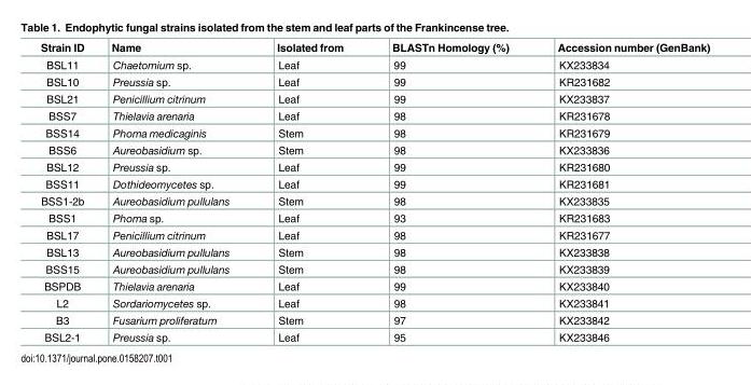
<table><thead><tr><td>Strain ID</td><td>Name</td><td>Isolated from</td><td>BLASTn Homology (%)</td><td>Accession number (GenBank)</td></tr></thead><tbody><tr><td>BSL11</td><td>Chaetomium sp.</td><td>Leaf</td><td>99</td><td>KX233834</td></tr><tr><td>BSL10</td><td>Preussia sp.</td><td>Leaf</td><td>99</td><td>KR231682</td></tr><tr><td>BSL21</td><td>Penicillium citrinum</td><td>Leaf</td><td>99</td><td>KX233837</td></tr><tr><td>BSS7</td><td>Thielavia arenaria</td><td>Leaf</td><td>98</td><td>KR231678</td></tr><tr><td>BSS14</td><td>Phoma medicaginis</td><td>Stem</td><td>98</td><td>KR231679</td></tr><tr><td>BSS6</td><td>Aureobasidium sp.</td><td>Stem</td><td>98</td><td>KX233836</td></tr><tr><td>BSL12</td><td>Preussia sp.</td><td>Leaf</td><td>99</td><td>KR231680</td></tr><tr><td>BSS11</td><td>Dothideomycetes sp.</td><td>Leaf</td><td>99</td><td>KR231681</td></tr><tr><td>BSS1-2b</td><td>Aureobasidium pullulans</td><td>Stem</td><td>98</td><td>KX233835</td></tr><tr><td>BSS1</td><td>Phoma sp.</td><td>Leaf</td><td>93</td><td>KR231683</td></tr><tr><td>BSL17</td><td>Penicillium citrinum</td><td>Leaf</td><td>98</td><td>KR231677</td></tr><tr><td>BSL13</td><td>Aureobasidium pullulans</td><td>Stem</td><td>98</td><td>KX233838</td></tr><tr><td>BSS15</td><td>Aureobasidium pullulans</td><td>Stem</td><td>98</td><td>KX233839</td></tr><tr><td>BSPDB</td><td>Thielavia arenaria</td><td>Leaf</td><td>99</td><td>KX233840</td></tr><tr><td>L2</td><td>Sordariomycetes sp.</td><td>Leaf</td><td>98</td><td>KX233841</td></tr><tr><td>B3</td><td>Fusarium proliferatum</td><td>Stem</td><td>97</td><td>KX233842</td></tr><tr><td>BSL2-1</td><td>Preussia sp.</td><td>Leaf</td><td>95</td><td>KX233846</td></tr></tbody></table>